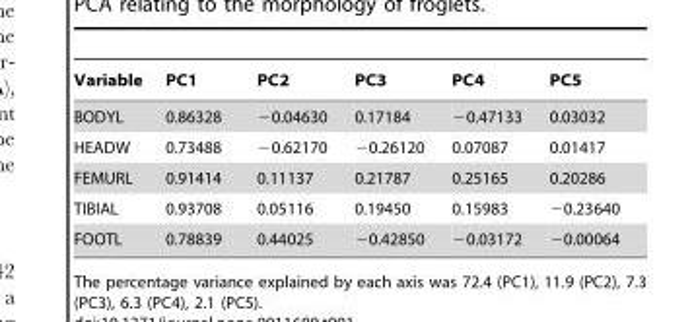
<table><thead><tr><td>Variable</td><td>PC1</td><td>PC2</td><td>PC3</td><td>PC4</td><td>PC5</td></tr></thead><tbody><tr><td>BODYL</td><td>0.86328</td><td>−0.04630</td><td>0.17184</td><td>−0.47133</td><td>0.03032</td></tr><tr><td>HEADW</td><td>0.73488</td><td>−0.62170</td><td>−0.26120</td><td>0.07087</td><td>0.01417</td></tr><tr><td>FEMURL</td><td>0.91414</td><td>0.11137</td><td>0.21787</td><td>0.25165</td><td>0.20286</td></tr><tr><td>TIBIAL</td><td>0.93708</td><td>0.05116</td><td>0.19450</td><td>0.15983</td><td>−0.23640</td></tr><tr><td>FOOTL</td><td>0.78839</td><td>0.44025</td><td>−0.42850</td><td>−0.03172</td><td>−0.00064</td></tr></tbody></table>